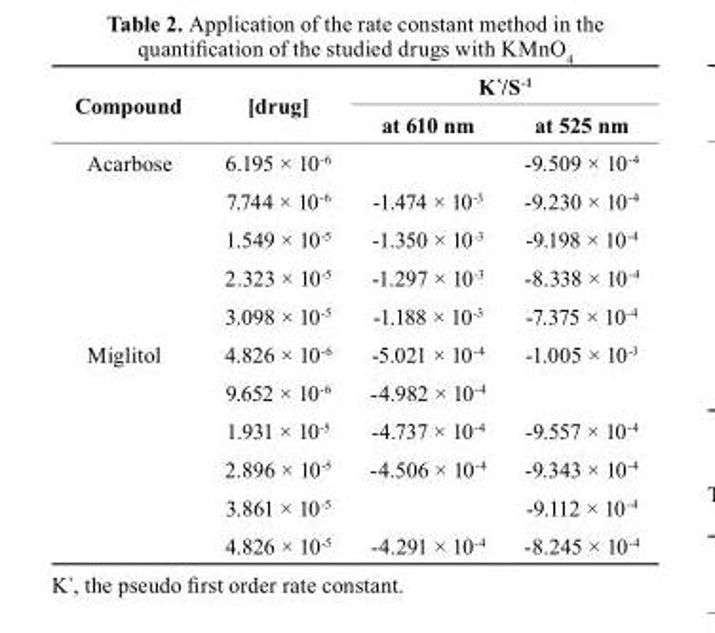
<table><thead><tr><td rowspan="2">compound</td><td rowspan="2">[drug]</td><td colspan="2">K`/S-1</td></tr><tr><td>at 610 nm</td><td>at 525 nm</td></tr></thead><tbody><tr><td rowspan="5">Acarbose</td><td>6.195 × 10<sup>-6</sup></td><td></td><td>-9.509 × 10<sup>-4</sup></td></tr><tr><td>7.744 × 10<sup>-6</sup></td><td>-1.474 × 10<sup>-3</sup></td><td>-9.230 × 10<sup>-4</sup></td></tr><tr><td>1.549 × 10<sup>-5</sup></td><td>-1.350 × 10<sup>-3</sup></td><td>-9.198 × 10<sup>-4</sup></td></tr><tr><td>2.323 × 10<sup>-5</sup></td><td>-1.297 × 10<sup>-3</sup></td><td>-8.338 × 10<sup>-4</sup></td></tr><tr><td>3.098 × 10<sup>-5</sup></td><td>-1.188 × 10<sup>-3</sup></td><td>-7.375 × 10<sup>-4</sup></td></tr><tr><td rowspan="6">Miglitol</td><td>4.826 × 10<sup>-6</sup></td><td>-5.021 × 10<sup>-4</sup></td><td>-1.005 × 10<sup>-3</sup></td></tr><tr><td>9.652 × 10<sup>-6</sup></td><td>-4.982 × 10<sup>-4</sup></td><td></td></tr><tr><td>1.931 × 10<sup>-5</sup></td><td>-4.737 × 10<sup>-4</sup></td><td>-9.557 × 10<sup>-4</sup></td></tr><tr><td>2.896 × 10<sup>-5</sup></td><td>-4.506 × 10<sup>-4</sup></td><td>-9.343 × 10<sup>-4</sup></td></tr><tr><td>3.861 × 10<sup>-5</sup></td><td></td><td>-9.112 × 10<sup>-4</sup></td></tr><tr><td>4.826 × 10<sup>-5</sup></td><td>-4.291 × 10<sup>-4</sup></td><td>-8.245 × 10<sup>-4</sup></td></tr></tbody></table>